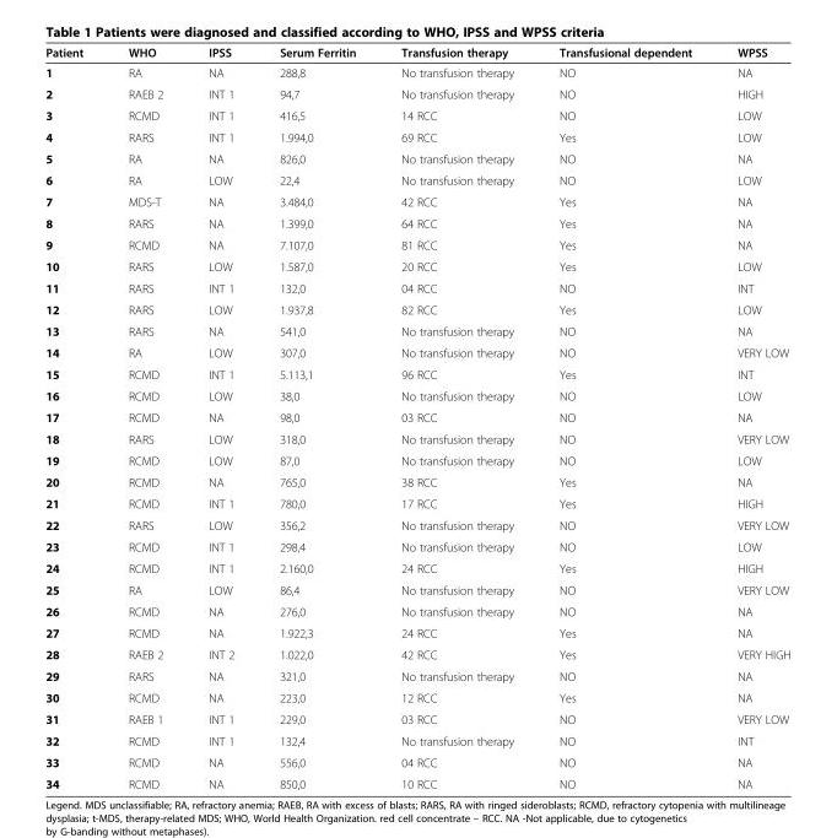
<table><thead><tr><td>Patient</td><td>WHO</td><td>IPSS</td><td>Serum Ferritin</td><td>Transfusion therapy</td><td>Transfusional dependent</td><td>WPSS</td></tr></thead><tbody><tr><td>1</td><td>RA</td><td>NA</td><td>288,8</td><td>No transfusion therapy</td><td>NO</td><td>NA</td></tr><tr><td>2</td><td>RAEB 2</td><td>INT 1</td><td>94,7</td><td>No transfusion therapy</td><td>NO</td><td>HIGH</td></tr><tr><td>3</td><td>RCMD</td><td>INT 1</td><td>416,5</td><td>14 RCC</td><td>NO</td><td>LOW</td></tr><tr><td>4</td><td>RARS</td><td>INT 1</td><td>1.994,0</td><td>69 RCC</td><td>Yes</td><td>LOW</td></tr><tr><td>5</td><td>RA</td><td>NA</td><td>826,0</td><td>No transfusion therapy</td><td>NO</td><td>NA</td></tr><tr><td>6</td><td>RA</td><td>LOW</td><td>22,4</td><td>No transfusion therapy</td><td>NO</td><td>LOW</td></tr><tr><td>7</td><td>MDS-T</td><td>NA</td><td>3.484,0</td><td>42 RCC</td><td>Yes</td><td>NA</td></tr><tr><td>8</td><td>RARS</td><td>NA</td><td>1.399,0</td><td>64 RCC</td><td>Yes</td><td>NA</td></tr><tr><td>9</td><td>RCMD</td><td>NA</td><td>7.107,0</td><td>81 RCC</td><td>Yes</td><td>NA</td></tr><tr><td>10</td><td>RARS</td><td>LOW</td><td>1.587,0</td><td>20 RCC</td><td>Yes</td><td>LOW</td></tr><tr><td>11</td><td>RARS</td><td>INT 1</td><td>132,0</td><td>04 RCC</td><td>NO</td><td>INT</td></tr><tr><td>12</td><td>RARS</td><td>LOW</td><td>1.937,8</td><td>82 RCC</td><td>Yes</td><td>LOW</td></tr><tr><td>13</td><td>RARS</td><td>NA</td><td>541,0</td><td>No transfusion therapy</td><td>NO</td><td>NA</td></tr><tr><td>14</td><td>RA</td><td>LOW</td><td>307,0</td><td>No transfusion therapy</td><td>NO</td><td>VERY LOW</td></tr><tr><td>15</td><td>RCMD</td><td>INT 1</td><td>5.113,1</td><td>96 RCC</td><td>Yes</td><td>INT</td></tr><tr><td>16</td><td>RCMD</td><td>LOW</td><td>38,0</td><td>No transfusion therapy</td><td>NO</td><td>LOW</td></tr><tr><td>17</td><td>RCMD</td><td>NA</td><td>98,0</td><td>03 RCC</td><td>NO</td><td>NA</td></tr><tr><td>18</td><td>RARS</td><td>LOW</td><td>318,0</td><td>No transfusion therapy</td><td>NO</td><td>VERY LOW</td></tr><tr><td>19</td><td>RCMD</td><td>LOW</td><td>87,0</td><td>No transfusion therapy</td><td>NO</td><td>LOW</td></tr><tr><td>20</td><td>RCMD</td><td>NA</td><td>765,0</td><td>38 RCC</td><td>Yes</td><td>NA</td></tr><tr><td>21</td><td>RCMD</td><td>INT 1</td><td>780,0</td><td>17 RCC</td><td>Yes</td><td>HIGH</td></tr><tr><td>22</td><td>RARS</td><td>LOW</td><td>356,2</td><td>No transfusion therapy</td><td>NO</td><td>VERY LOW</td></tr><tr><td>23</td><td>RCMD</td><td>INT 1</td><td>298,4</td><td>No transfusion therapy</td><td>NO</td><td>LOW</td></tr><tr><td>24</td><td>RCMD</td><td>INT 1</td><td>2.160,0</td><td>24 RCC</td><td>Yes</td><td>HIGH</td></tr><tr><td>25</td><td>RA</td><td>LOW</td><td>86,4</td><td>No transfusion therapy</td><td>NO</td><td>VERY LOW</td></tr><tr><td>26</td><td>RCMD</td><td>NA</td><td>276,0</td><td>No transfusion therapy</td><td>NO</td><td>NA</td></tr><tr><td>27</td><td>RCMD</td><td>NA</td><td>1.922,3</td><td>24 RCC</td><td>Yes</td><td>NA</td></tr><tr><td>28</td><td>RAEB 2</td><td>INT 2</td><td>1.022,0</td><td>42 RCC</td><td>Yes</td><td>VERY HIGH</td></tr><tr><td>29</td><td>RARS</td><td>NA</td><td>321,0</td><td>No transfusion therapy</td><td>NO</td><td>NA</td></tr><tr><td>30</td><td>RCMD</td><td>NA</td><td>223,0</td><td>12 RCC</td><td>Yes</td><td>NA</td></tr><tr><td>31</td><td>RAEB 1</td><td>INT 1</td><td>229,0</td><td>03 RCC</td><td>NO</td><td>VERY LOW</td></tr><tr><td>32</td><td>RCMD</td><td>INT 1</td><td>132,4</td><td>No transfusion therapy</td><td>NO</td><td>INT</td></tr><tr><td>33</td><td>RCMD</td><td>NA</td><td>556,0</td><td>04 RCC</td><td>NO</td><td>NA</td></tr><tr><td>34</td><td>RCMD</td><td>NA</td><td>850,0</td><td>10 RCC</td><td>NO</td><td>NA</td></tr></tbody></table>